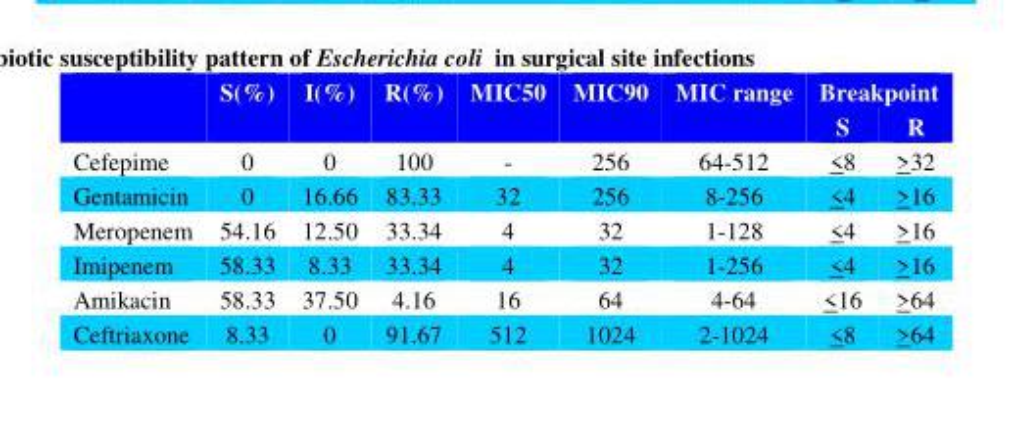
<table><thead><tr><td rowspan="2"></td><td rowspan="2">S(%)</td><td rowspan="2">I(%)</td><td rowspan="2">R(%)</td><td rowspan="2">MIC50</td><td rowspan="2">MIC90</td><td rowspan="2">MIC range</td><td colspan="2">Breakpoint</td></tr><tr><td>S</td><td>R</td></tr></thead><tbody><tr><td>Cefepime</td><td>0</td><td>0</td><td>100</td><td>-</td><td>256</td><td>64-512</td><td>&lt;8</td><td>&gt;32</td></tr><tr><td>Gentamicin</td><td>0</td><td>16.66</td><td>83.33</td><td>32</td><td>256</td><td>8-256</td><td>&lt;4</td><td>&gt;16</td></tr><tr><td>Meropenem</td><td>54.16</td><td>12.50</td><td>33.34</td><td>4</td><td>32</td><td>1-128</td><td>&lt;4</td><td>&gt;16</td></tr><tr><td>Imipenem</td><td>58.33</td><td>8.33</td><td>33.34</td><td>4</td><td>32</td><td>1-256</td><td>&lt;4</td><td>&gt;16</td></tr><tr><td>Amikacin</td><td>58.33</td><td>37.50</td><td>4.16</td><td>16</td><td>64</td><td>4-64</td><td>&lt;16</td><td>&gt;64</td></tr><tr><td>Ceftriaxone</td><td>8.33</td><td>0</td><td>91.67</td><td>512</td><td>1024</td><td>2-1024</td><td>&lt;8</td><td>&gt;64</td></tr></tbody></table>